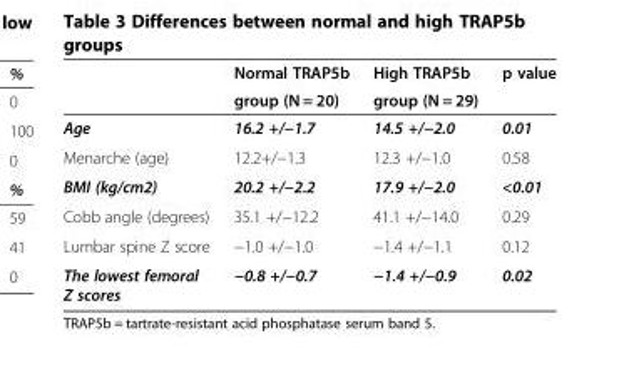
<table><thead><tr><td rowspan="2"></td><td rowspan="2">Normal TRAP5b group (N = 20)</td><td rowspan="2">High TRAP5b group (N = 29)</td><td rowspan="2">p value</td></tr><tr></tr></thead><tbody><tr><td>Age</td><td>16.2 +/−1.7</td><td>14.5 +/−2.0</td><td>0.01</td></tr><tr><td>Menarche (age)</td><td>12.2+/−1.3</td><td>12.3 +/−1.0</td><td>0.58</td></tr><tr><td>BMI (kg/cm2)</td><td>20.2 +/−2.2</td><td>17.9 +/−2.0</td><td>&lt;0.01</td></tr><tr><td>Cobb angle (degrees)</td><td>35.1 +/−12.2</td><td>41.1 +/−14.0</td><td>0.29</td></tr><tr><td>Lumbar spine Z score</td><td>−1.0 +/−1.0</td><td>−1.4 +/−1.1</td><td>0.12</td></tr><tr><td>The lowest femoral Z scores</td><td>−0.8 +/−0.7</td><td>−1.4 +/−0.9</td><td>0.02</td></tr></tbody></table>